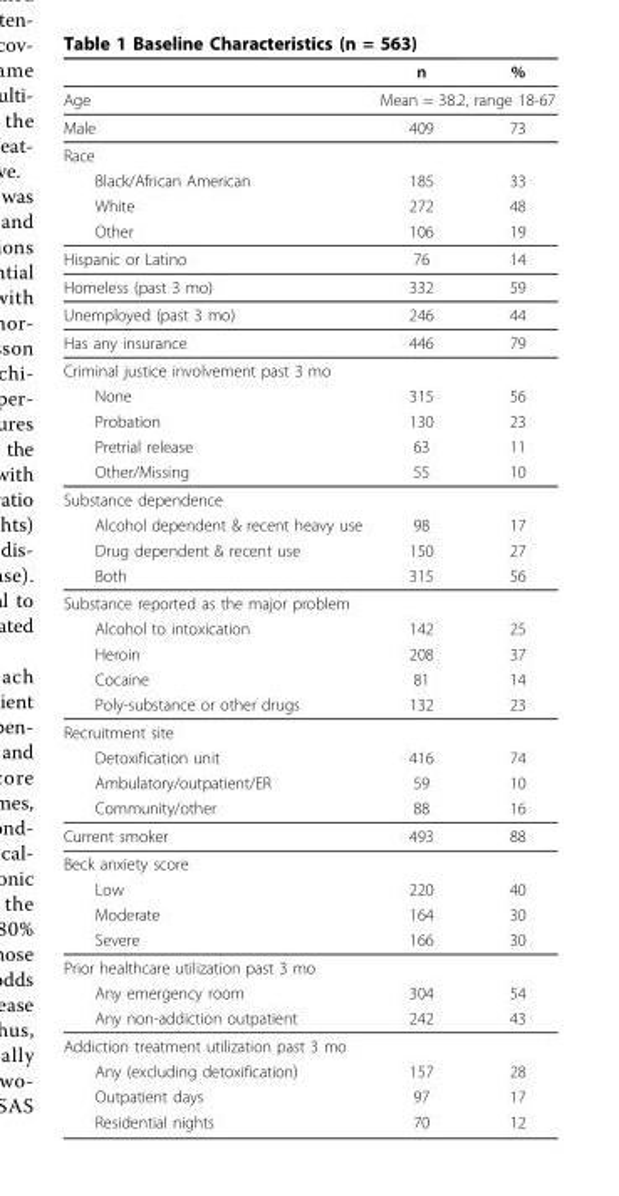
<table><thead><tr><td></td><td>n</td><td>%</td></tr></thead><tbody><tr><td>Age</td><td colspan="2">Mean = 38.2, range 18-67</td></tr><tr><td>Male</td><td>409</td><td>73</td></tr><tr><td colspan="3">Race</td></tr><tr><td>Black/African American</td><td>185</td><td>33</td></tr><tr><td>White</td><td>272</td><td>48</td></tr><tr><td>Other</td><td>106</td><td>19</td></tr><tr><td>Hispanic or Latino</td><td>76</td><td>14</td></tr><tr><td>Homeless (past 3 mo)</td><td>332</td><td>59</td></tr><tr><td>Unemployed (past 3 mo)</td><td>246</td><td>44</td></tr><tr><td>Has any insurance</td><td>446</td><td>79</td></tr><tr><td colspan="3">Criminal justice involvement past 3 mo</td></tr><tr><td>None</td><td>315</td><td>56</td></tr><tr><td>Probation</td><td>130</td><td>23</td></tr><tr><td>Pretrial release</td><td>63</td><td>11</td></tr><tr><td>Other/Missing</td><td>55</td><td>10</td></tr><tr><td colspan="3">Substance dependence</td></tr><tr><td>Alcohol dependent &amp; recent heavy use</td><td>98</td><td>17</td></tr><tr><td>Drug dependent &amp; recent use</td><td>150</td><td>27</td></tr><tr><td>Both</td><td>315</td><td>56</td></tr><tr><td colspan="3">Substance reported as the major problem</td></tr><tr><td>Alcohol to intoxication</td><td>142</td><td>25</td></tr><tr><td>Heroin</td><td>208</td><td>37</td></tr><tr><td>Cocaine</td><td>81</td><td>14</td></tr><tr><td>Poly-substance or other drugs</td><td>132</td><td>23</td></tr><tr><td colspan="3">Recruitment site</td></tr><tr><td>Detoxification unit</td><td>416</td><td>74</td></tr><tr><td>Ambulatory/outpatient/ER</td><td>59</td><td>10</td></tr><tr><td>Community/other</td><td>88</td><td>16</td></tr><tr><td>Current smoker</td><td>493</td><td>88</td></tr><tr><td colspan="3">Beck anxiety score</td></tr><tr><td>Low</td><td>220</td><td>40</td></tr><tr><td>Moderate</td><td>164</td><td>30</td></tr><tr><td>Severe</td><td>166</td><td>30</td></tr><tr><td colspan="3">Prior healthcare utilization past 3 mo</td></tr><tr><td>Any emergency room</td><td>304</td><td>54</td></tr><tr><td>Any non-addiction outpatient</td><td>242</td><td>43</td></tr><tr><td colspan="3">Addiction treatment utilization past 3 mo</td></tr><tr><td>Any (excluding detoxification)</td><td>157</td><td>28</td></tr><tr><td>Outpatient days</td><td>97</td><td>17</td></tr><tr><td>Residential nights</td><td>70</td><td>12</td></tr></tbody></table>